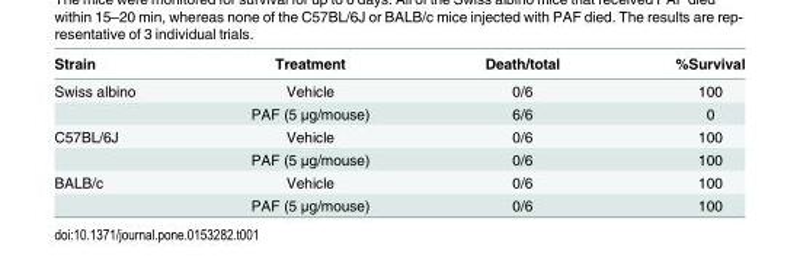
<table><thead><tr><td>Strain</td><td>Treatment</td><td>Death/total</td><td>%Survival</td></tr></thead><tbody><tr><td rowspan="2">Swiss albino</td><td>Vehicle</td><td>0/6</td><td>100</td></tr><tr><td>PAF (5 μg/mouse)</td><td>6/6</td><td>0</td></tr><tr><td rowspan="2">C57BL/6J</td><td>Vehicle</td><td>0/6</td><td>100</td></tr><tr><td>PAF (5 μg/mouse)</td><td>0/6</td><td>100</td></tr><tr><td rowspan="2">BALB/c</td><td>Vehicle</td><td>0/6</td><td>100</td></tr><tr><td>PAF (5 μg/mouse)</td><td>0/6</td><td>100</td></tr></tbody></table>